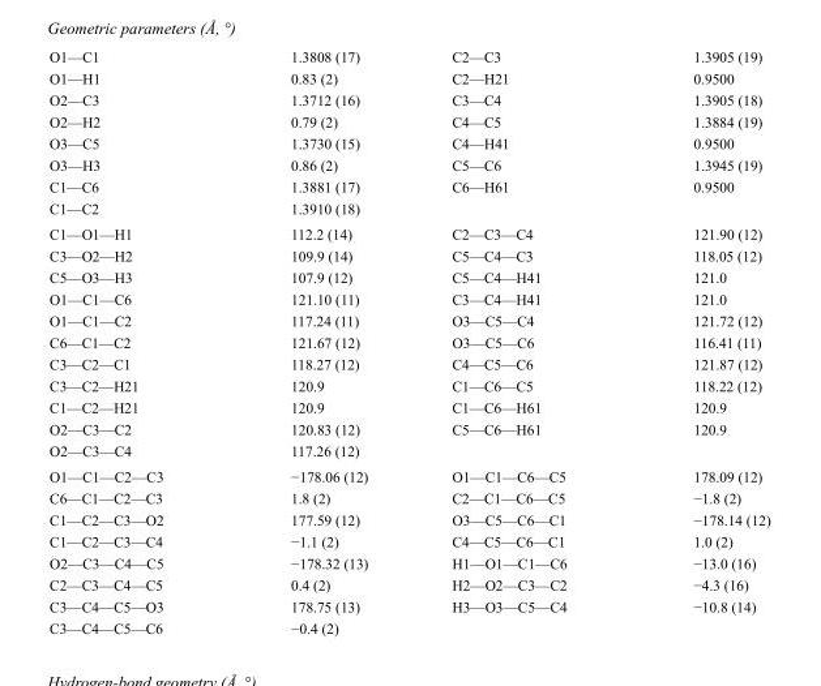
<table><tbody><tr><td>O1—C1</td><td>1.3808 (17)</td><td>C2—C3</td><td>1.3905 (19)</td></tr><tr><td>O1—H1</td><td>0.83 (2)</td><td>C2—H21</td><td>0.9500</td></tr><tr><td>O2—C3</td><td>1.3712 (16)</td><td>C3—C4</td><td>1.3905 (18)</td></tr><tr><td>O2—H2</td><td>0.79 (2)</td><td>C4—C5</td><td>1.3884 (19)</td></tr><tr><td>O3—C5</td><td>1.3730 (15)</td><td>C4—H41</td><td>0.9500</td></tr><tr><td>O3—H3</td><td>0.86 (2)</td><td>C5—C6</td><td>1.3945 (19)</td></tr><tr><td>C1—C6</td><td>1.3881 (17)</td><td>C6—H61</td><td>0.9500</td></tr><tr><td>C1—C2</td><td>1.3910 (18)</td><td></td><td></td></tr><tr><td>C1—O1—H1</td><td>112.2 (14)</td><td>C2—C3—C4</td><td>121.90 (12)</td></tr><tr><td>C3—O2—H2</td><td>109.9 (14)</td><td>C5—C4—C3</td><td>118.05 (12)</td></tr><tr><td>C5—O3—H3</td><td>107.9 (12)</td><td>C5—C4—H41</td><td>121.0</td></tr><tr><td>O1—C1—C6</td><td>121.10 (11)</td><td>C3—C4—H41</td><td>121.0</td></tr><tr><td>O1—C1—C2</td><td>117.24 (11)</td><td>O3—C5—C4</td><td>121.72 (12)</td></tr><tr><td>C6—C1—C2</td><td>121.67 (12)</td><td>O3—C5—C6</td><td>116.41 (11)</td></tr><tr><td>C3—C2—C1</td><td>118.27 (12)</td><td>C4—C5—C6</td><td>121.87 (12)</td></tr><tr><td>C3—C2—H21</td><td>120.9</td><td>C1—C6—C5</td><td>118.22 (12)</td></tr><tr><td>C1—C2—H21</td><td>120.9</td><td>C1—C6—H61</td><td>120.9</td></tr><tr><td>O2—C3—C2</td><td>120.83 (12)</td><td>C5—C6—H61</td><td>120.9</td></tr><tr><td>O2—C3—C4</td><td>117.26 (12)</td><td></td><td></td></tr><tr><td>O1—C1—C2—C3</td><td>−178.06 (12)</td><td>O1—C1—C6—C5</td><td>178.09 (12)</td></tr><tr><td>C6—C1—C2—C3</td><td>1.8 (2)</td><td>C2—C1—C6—C5</td><td>−1.8 (2)</td></tr><tr><td>C1—C2—C3—O2</td><td>177.59 (12)</td><td>O3—C5—C6—C1</td><td>−178.14 (12)</td></tr><tr><td>C1—C2—C3—C4</td><td>−1.1 (2)</td><td>C4—C5—C6—C1</td><td>1.0 (2)</td></tr><tr><td>O2—C3—C4—C5</td><td>−178.32 (13)</td><td>H1—O1—C1—C6</td><td>−13.0 (16)</td></tr><tr><td>C2—C3—C4—C5</td><td>0.4 (2)</td><td>H2—O2—C3—C2</td><td>−4.3 (16)</td></tr><tr><td>C3—C4—C5—O3</td><td>178.75 (13)</td><td>H3—O3—C5—C4</td><td>−10.8 (14)</td></tr><tr><td>C3—C4—C5—C6</td><td>−0.4 (2)</td><td></td><td></td></tr></tbody></table>